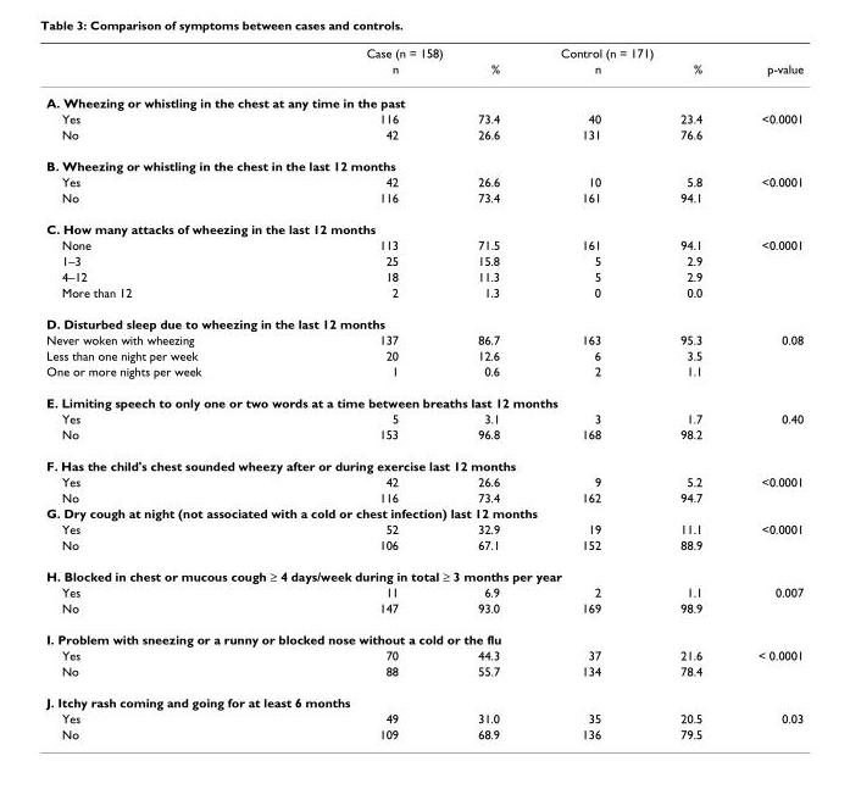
<table><thead><tr><td rowspan="2"></td><td colspan="2">Case (n = 158)</td><td colspan="2">Control (n = 171)</td><td rowspan="2">p-value</td></tr><tr><td>n</td><td>%</td><td>n</td><td>%</td></tr></thead><tbody><tr><td colspan="6">A. Wheezing or whistling in the chest at any time in the past</td></tr><tr><td>Yes</td><td>116</td><td>73.4</td><td>40</td><td>23.4</td><td>&lt;0.0001</td></tr><tr><td>No</td><td>42</td><td>26.6</td><td>131</td><td>76.6</td><td></td></tr><tr><td colspan="6">B. Wheezing or whistling in the chest in the last 12 months</td></tr><tr><td>Yes</td><td>42</td><td>26.6</td><td>10</td><td>5.8</td><td>&lt;0.0001</td></tr><tr><td>No</td><td>116</td><td>73.4</td><td>161</td><td>94.1</td><td></td></tr><tr><td colspan="6">C. How many attacks of wheezing in the last 12 months</td></tr><tr><td>None</td><td>113</td><td>71.5</td><td>161</td><td>94.1</td><td>&lt;0.0001</td></tr><tr><td>1–3</td><td>25</td><td>15.8</td><td>5</td><td>2.9</td><td></td></tr><tr><td>4–12</td><td>18</td><td>11.3</td><td>5</td><td>2.9</td><td></td></tr><tr><td>More than 12</td><td>2</td><td>1.3</td><td>0</td><td>0.0</td><td></td></tr><tr><td colspan="6">D. Disturbed sleep due to wheezing in the last 12 months</td></tr><tr><td>Never woken with wheezing</td><td>137</td><td>86.7</td><td>163</td><td>95.3</td><td>0.08</td></tr><tr><td>Less than one night per week</td><td>20</td><td>12.6</td><td>6</td><td>3.5</td><td></td></tr><tr><td>One or more nights per week</td><td>1</td><td>0.6</td><td>2</td><td>1.1</td><td></td></tr><tr><td colspan="6">E. Limiting speech to only one or two words at a time between breaths last 12 months</td></tr><tr><td>Yes</td><td>5</td><td>3.1</td><td>3</td><td>1.7</td><td>0.40</td></tr><tr><td>No</td><td>153</td><td>96.8</td><td>168</td><td>98.2</td><td></td></tr><tr><td colspan="6">F. Has the child&#x27;s chest sounded wheezy after or during exercise last 12 months</td></tr><tr><td>Yes</td><td>42</td><td>26.6</td><td>9</td><td>5.2</td><td>&lt;0.0001</td></tr><tr><td>No</td><td>116</td><td>73.4</td><td>162</td><td>94.7</td><td></td></tr><tr><td colspan="6">G. Dry cough at night (not associated with a cold or chest infection) last 12 months</td></tr><tr><td>Yes</td><td>52</td><td>32.9</td><td>19</td><td>11.1</td><td>&lt;0.0001</td></tr><tr><td>No</td><td>106</td><td>67.1</td><td>152</td><td>88.9</td><td></td></tr><tr><td colspan="6">H. Blocked in chest or mucous cough ≥ 4 days/week during in total ≥ 3 months per year</td></tr><tr><td>Yes</td><td>11</td><td>6.9</td><td>2</td><td>1.1</td><td>0.007</td></tr><tr><td>No</td><td>147</td><td>93.0</td><td>169</td><td>98.9</td><td></td></tr><tr><td colspan="6">I. Problem with sneezing or a runny or blocked nose without a cold or the flu</td></tr><tr><td>Yes</td><td>70</td><td>44.3</td><td>37</td><td>21.6</td><td>&lt; 0.0001</td></tr><tr><td>No</td><td>88</td><td>55.7</td><td>134</td><td>78.4</td><td></td></tr><tr><td colspan="6">J. Itchy rash coming and going for at least 6 months</td></tr><tr><td>Yes</td><td>49</td><td>31.0</td><td>35</td><td>20.5</td><td>0.03</td></tr><tr><td>No</td><td>109</td><td>68.9</td><td>136</td><td>79.5</td><td></td></tr></tbody></table>